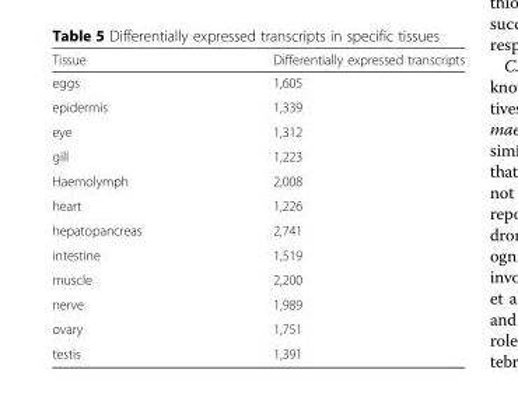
<table><thead><tr><td>Tissue</td><td>Differentially expressed transcripts</td></tr></thead><tbody><tr><td>eggs</td><td>1,605</td></tr><tr><td>epidermis</td><td>1,339</td></tr><tr><td>eye</td><td>1,312</td></tr><tr><td>gill</td><td>1,223</td></tr><tr><td>Haemolymph</td><td>2,008</td></tr><tr><td>heart</td><td>1,226</td></tr><tr><td>hepatopancreas</td><td>2,741</td></tr><tr><td>intestine</td><td>1,519</td></tr><tr><td>muscle</td><td>2,200</td></tr><tr><td>nerve</td><td>1,989</td></tr><tr><td>ovary</td><td>1,751</td></tr><tr><td>testis</td><td>1,391</td></tr></tbody></table>